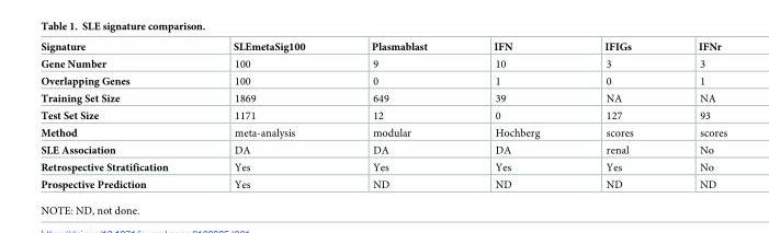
<table><thead><tr><td>Signature</td><td>SLEmetaSig100</td><td>Plasmablast</td><td>IFN</td><td>IFIGs</td><td>IFNr</td></tr></thead><tbody><tr><td>Gene Number</td><td>100</td><td>9</td><td>10</td><td>3</td><td>3</td></tr><tr><td>Overlapping Genes</td><td>100</td><td>0</td><td>1</td><td>0</td><td>1</td></tr><tr><td>Training Set Size</td><td>1869</td><td>649</td><td>39</td><td>NA</td><td>NA</td></tr><tr><td>Test Set Size</td><td>1171</td><td>12</td><td>0</td><td>127</td><td>93</td></tr><tr><td>Method</td><td>meta-analysis</td><td>modular</td><td>Hochberg</td><td>scores</td><td>scores</td></tr><tr><td>SLE Association</td><td>DA</td><td>DA</td><td>DA</td><td>renal</td><td>No</td></tr><tr><td>Retrospective Stratification</td><td>Yes</td><td>Yes</td><td>Yes</td><td>Yes</td><td>No</td></tr><tr><td>Prospective Prediction</td><td>Yes</td><td>ND</td><td>ND</td><td>ND</td><td>ND</td></tr></tbody></table>